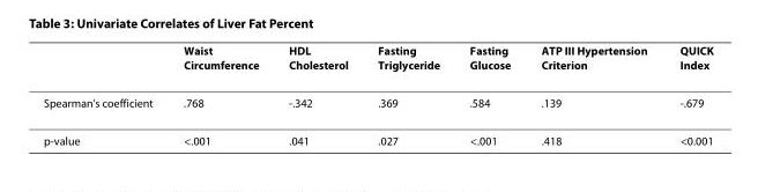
<table><thead><tr><td></td><td>Waist Circumference</td><td>HDL Cholesterol</td><td>Fasting Triglyceride</td><td>Fasting Glucose</td><td>ATP III Hypertension Criterion</td><td>QUICK Index</td></tr></thead><tbody><tr><td>Spearman&#x27;s coefficient</td><td>.768</td><td>-.342</td><td>.369</td><td>.584</td><td>.139</td><td>-.679</td></tr><tr><td>p-value</td><td>&lt;.001</td><td>.041</td><td>.027</td><td>&lt;.001</td><td>.418</td><td>&lt;0.001</td></tr></tbody></table>